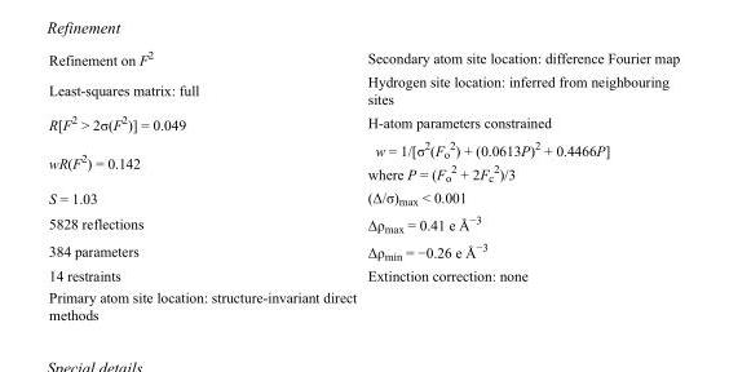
<table><tbody><tr><td>Refinement on F<sup>2</sup></td><td>Secondary atom site location: difference Fourier map</td></tr><tr><td>Least-squares matrix: full</td><td>Hydrogen site location: inferred from neighbouring sites</td></tr><tr><td>R[F<sup>2</sup> &gt; 2σ(F<sup>2</sup>)] = 0.049</td><td>H-atom parameters constrained</td></tr><tr><td>wR(F<sup>2</sup>) = 0.142</td><td>w = 1/[σ<sup>2</sup>(F<sub>o</sub> <sup>2</sup>) + (0.0613P)<sup>2</sup> + 0.4466P] where P = (F<sub>o</sub> <sup>2</sup> + 2F<sub>c</sub> <sup>2</sup>)/3</td></tr><tr><td>S = 1.03</td><td>(Δ/σ)<sub>max</sub> &lt; 0.001</td></tr><tr><td>5828 reflections</td><td>Δρ<sub>max</sub> = 0.41 e Å<sup>−3</sup></td></tr><tr><td>384 parameters</td><td>Δρ<sub>min</sub> = −0.26 e Å<sup>−3</sup></td></tr><tr><td>14 restraints</td><td>Extinction correction: none</td></tr><tr><td>Primary atom site location: structure-invariant direct methods</td><td></td></tr></tbody></table>